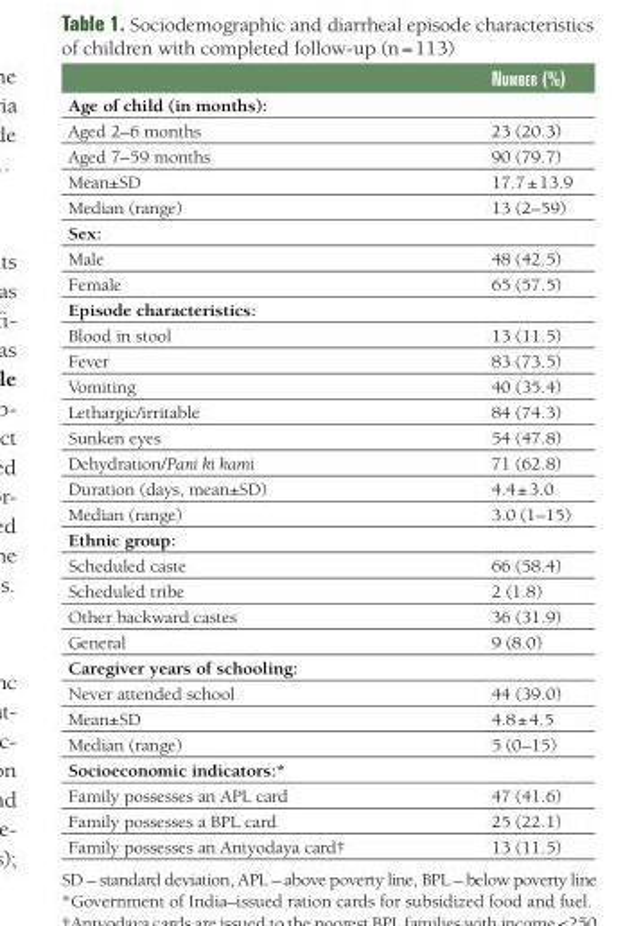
<table><thead><tr><td></td><td>Number (%)</td></tr></thead><tbody><tr><td colspan="2">Age of child (in months):</td></tr><tr><td>Aged 2–6 months</td><td>23 (20.3)</td></tr><tr><td>Aged 7–59 months</td><td>90 (79.7)</td></tr><tr><td>Mean±SD</td><td>17.7 ± 13.9</td></tr><tr><td>Median (range)</td><td>13 (2–59)</td></tr><tr><td colspan="2">Sex:</td></tr><tr><td>Male</td><td>48 (42.5)</td></tr><tr><td>Female</td><td>65 (57.5)</td></tr><tr><td colspan="2">Episode characteristics:</td></tr><tr><td>Blood in stool</td><td>13 (11.5)</td></tr><tr><td>Fever</td><td>83 (73.5)</td></tr><tr><td>Vomiting</td><td>40 (35.4)</td></tr><tr><td>Lethargic/irritable</td><td>84 (74.3)</td></tr><tr><td>Sunken eyes</td><td>54 (47.8)</td></tr><tr><td>Dehydration/Pani ki kami</td><td>71 (62.8)</td></tr><tr><td>Duration (days, mean±SD)</td><td>4.4 ± 3.0</td></tr><tr><td>Median (range)</td><td>3.0 (1–15)</td></tr><tr><td colspan="2">Ethnic group:</td></tr><tr><td>Scheduled caste</td><td>66 (58.4)</td></tr><tr><td>Scheduled tribe</td><td>2 (1.8)</td></tr><tr><td>Other backward castes</td><td>36 (31.9)</td></tr><tr><td>General</td><td>9 (8.0)</td></tr><tr><td colspan="2">Caregiver years of schooling:</td></tr><tr><td>Never attended school</td><td>44 (39.0)</td></tr><tr><td>Mean±SD</td><td>4.8 ± 4.5</td></tr><tr><td>Median (range)</td><td>5 (0–15)</td></tr><tr><td colspan="2">Socioeconomic indicators:*</td></tr><tr><td>Family possesses an APL card</td><td>47 (41.6)</td></tr><tr><td>Family possesses a BPL card</td><td>25 (22.1)</td></tr><tr><td>Family possesses an Antyodaya card†</td><td>13 (11.5)</td></tr></tbody></table>